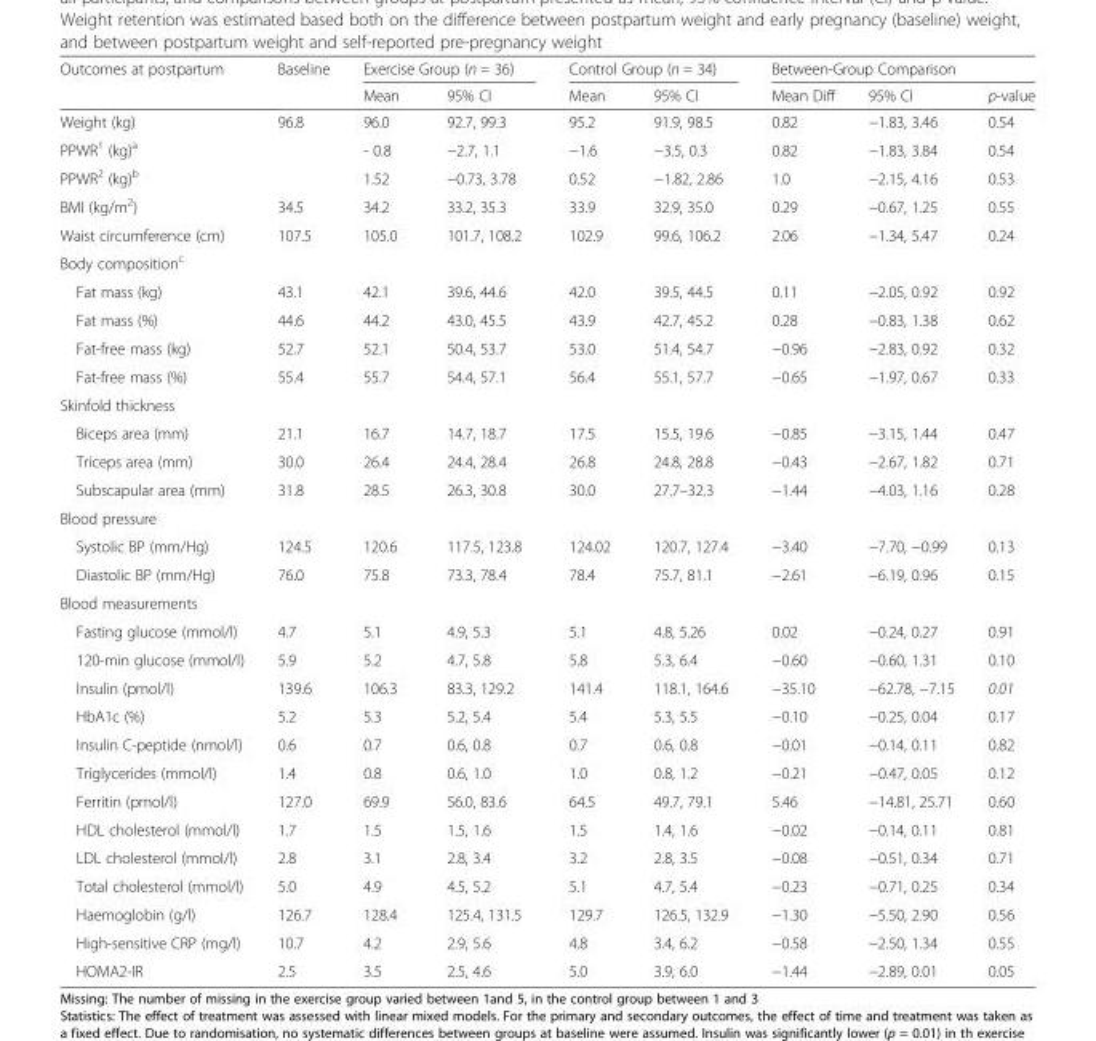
<table><thead><tr><td rowspan="2">Outcomes at postpartum</td><td rowspan="2">Baseline</td><td colspan="2">Exercise Group (n = 36)</td><td colspan="2">Control Group (n = 34)</td><td colspan="3">Between-Group Comparison</td></tr><tr><td>Mean</td><td>95% CI</td><td>Mean</td><td>95% CI</td><td>Mean Diff</td><td>95% CI</td><td>p-value</td></tr></thead><tbody><tr><td>Weight (kg)</td><td>96.8</td><td>96.0</td><td>92.7, 99.3</td><td>95.2</td><td>91.9, 98.5</td><td>0.82</td><td>−1.83, 3.46</td><td>0.54</td></tr><tr><td>PPWR<sup>1</sup> (kg)<sup>a</sup></td><td></td><td>- 0.8</td><td>−2.7, 1.1</td><td>−1.6</td><td>−3.5, 0.3</td><td>0.82</td><td>−1.83, 3.84</td><td>0.54</td></tr><tr><td>PPWR<sup>2</sup> (kg)<sup>b</sup></td><td></td><td>1.52</td><td>−0.73, 3.78</td><td>0.52</td><td>−1.82, 2.86</td><td>1.0</td><td>−2.15, 4.16</td><td>0.53</td></tr><tr><td>BMI (kg/m<sup>2</sup>)</td><td>34.5</td><td>34.2</td><td>33.2, 35.3</td><td>33.9</td><td>32.9, 35.0</td><td>0.29</td><td>−0.67, 1.25</td><td>0.55</td></tr><tr><td>Waist circumference (cm)</td><td>107.5</td><td>105.0</td><td>101.7, 108.2</td><td>102.9</td><td>99.6, 106.2</td><td>2.06</td><td>−1.34, 5.47</td><td>0.24</td></tr><tr><td colspan="9">Body composition<sup>c</sup></td></tr><tr><td>Fat mass (kg)</td><td>43.1</td><td>42.1</td><td>39.6, 44.6</td><td>42.0</td><td>39.5, 44.5</td><td>0.11</td><td>−2.05, 0.92</td><td>0.92</td></tr><tr><td>Fat mass (%)</td><td>44.6</td><td>44.2</td><td>43.0, 45.5</td><td>43.9</td><td>42.7, 45.2</td><td>0.28</td><td>−0.83, 1.38</td><td>0.62</td></tr><tr><td>Fat-free mass (kg)</td><td>52.7</td><td>52.1</td><td>50.4, 53.7</td><td>53.0</td><td>51.4, 54.7</td><td>−0.96</td><td>−2.83, 0.92</td><td>0.32</td></tr><tr><td>Fat-free mass (%)</td><td>55.4</td><td>55.7</td><td>54.4, 57.1</td><td>56.4</td><td>55.1, 57.7</td><td>−0.65</td><td>−1.97, 0.67</td><td>0.33</td></tr><tr><td colspan="9">Skinfold thickness</td></tr><tr><td>Biceps area (mm)</td><td>21.1</td><td>16.7</td><td>14.7, 18.7</td><td>17.5</td><td>15.5, 19.6</td><td>−0.85</td><td>−3.15, 1.44</td><td>0.47</td></tr><tr><td>Triceps area (mm)</td><td>30.0</td><td>26.4</td><td>24.4, 28.4</td><td>26.8</td><td>24.8, 28.8</td><td>−0.43</td><td>−2.67, 1.82</td><td>0.71</td></tr><tr><td>Subscapular area (mm)</td><td>31.8</td><td>28.5</td><td>26.3, 30.8</td><td>30.0</td><td>27.7–32.3</td><td>−1.44</td><td>−4.03, 1.16</td><td>0.28</td></tr><tr><td colspan="9">Blood pressure</td></tr><tr><td>Systolic BP (mm/Hg)</td><td>124.5</td><td>120.6</td><td>117.5, 123.8</td><td>124.02</td><td>120.7, 127.4</td><td>−3.40</td><td>−7.70, −0.99</td><td>0.13</td></tr><tr><td>Diastolic BP (mm/Hg)</td><td>76.0</td><td>75.8</td><td>73.3, 78.4</td><td>78.4</td><td>75.7, 81.1</td><td>−2.61</td><td>−6.19, 0.96</td><td>0.15</td></tr><tr><td colspan="9">Blood measurements</td></tr><tr><td>Fasting glucose (mmol/l)</td><td>4.7</td><td>5.1</td><td>4.9, 5.3</td><td>5.1</td><td>4.8, 5.26</td><td>0.02</td><td>−0.24, 0.27</td><td>0.91</td></tr><tr><td>120-min glucose (mmol/l)</td><td>5.9</td><td>5.2</td><td>4.7, 5.8</td><td>5.8</td><td>5.3, 6.4</td><td>−0.60</td><td>−0.60, 1.31</td><td>0.10</td></tr><tr><td>Insulin (pmol/l)</td><td>139.6</td><td>106.3</td><td>83.3, 129.2</td><td>141.4</td><td>118.1, 164.6</td><td>−35.10</td><td>−62.78, −7.15</td><td>0.01</td></tr><tr><td>HbA1c (%)</td><td>5.2</td><td>5.3</td><td>5.2, 5.4</td><td>5.4</td><td>5.3, 5.5</td><td>−0.10</td><td>−0.25, 0.04</td><td>0.17</td></tr><tr><td>Insulin C-peptide (nmol/l)</td><td>0.6</td><td>0.7</td><td>0.6, 0.8</td><td>0.7</td><td>0.6, 0.8</td><td>−0.01</td><td>−0.14, 0.11</td><td>0.82</td></tr><tr><td>Triglycerides (mmol/l)</td><td>1.4</td><td>0.8</td><td>0.6, 1.0</td><td>1.0</td><td>0.8, 1.2</td><td>−0.21</td><td>−0.47, 0.05</td><td>0.12</td></tr><tr><td>Ferritin (pmol/l)</td><td>127.0</td><td>69.9</td><td>56.0, 83.6</td><td>64.5</td><td>49.7, 79.1</td><td>5.46</td><td>−14.81, 25.71</td><td>0.60</td></tr><tr><td>HDL cholesterol (mmol/l)</td><td>1.7</td><td>1.5</td><td>1.5, 1.6</td><td>1.5</td><td>1.4, 1.6</td><td>−0.02</td><td>−0.14, 0.11</td><td>0.81</td></tr><tr><td>LDL cholesterol (mmol/l)</td><td>2.8</td><td>3.1</td><td>2.8, 3.4</td><td>3.2</td><td>2.8, 3.5</td><td>−0.08</td><td>−0.51, 0.34</td><td>0.71</td></tr><tr><td>Total cholesterol (mmol/l)</td><td>5.0</td><td>4.9</td><td>4.5, 5.2</td><td>5.1</td><td>4.7, 5.4</td><td>−0.23</td><td>−0.71, 0.25</td><td>0.34</td></tr><tr><td>Haemoglobin (g/l)</td><td>126.7</td><td>128.4</td><td>125.4, 131.5</td><td>129.7</td><td>126.5, 132.9</td><td>−1.30</td><td>−5.50, 2.90</td><td>0.56</td></tr><tr><td>High-sensitive CRP (mg/l)</td><td>10.7</td><td>4.2</td><td>2.9, 5.6</td><td>4.8</td><td>3.4, 6.2</td><td>−0.58</td><td>−2.50, 1.34</td><td>0.55</td></tr><tr><td>HOMA2-IR</td><td>2.5</td><td>3.5</td><td>2.5, 4.6</td><td>5.0</td><td>3.9, 6.0</td><td>−1.44</td><td>−2.89, 0.01</td><td>0.05</td></tr></tbody></table>